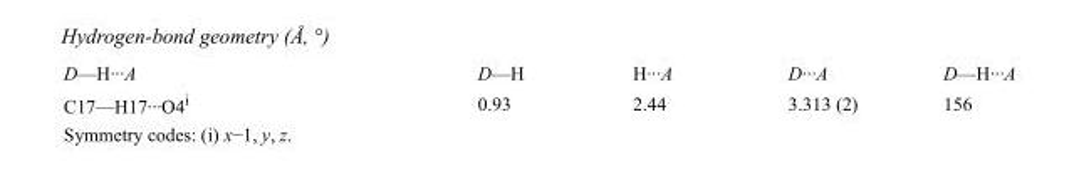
<table><tbody><tr><td>D—H···A</td><td>D—H</td><td>H···A</td><td>D···A</td><td>D—H···A</td></tr><tr><td>C17—H17···O4<sup>i</sup></td><td>0.93</td><td>2.44</td><td>3.313 (2)</td><td>156</td></tr></tbody></table>